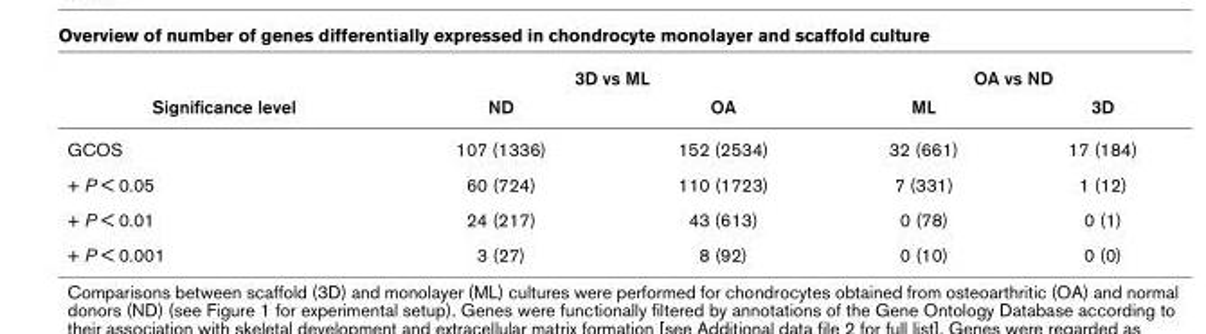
<table><thead><tr><td rowspan="2">Significance level</td><td colspan="2">3D vs ML</td><td colspan="2">OA vs ND</td></tr><tr><td>ND</td><td>OA</td><td>ML</td><td>3D</td></tr></thead><tbody><tr><td>GCOS</td><td>107 (1336)</td><td>152 (2534)</td><td>32 (661)</td><td>17 (184)</td></tr><tr><td>+ P &lt; 0.05</td><td>60 (724)</td><td>110 (1723)</td><td>7 (331)</td><td>1 (12)</td></tr><tr><td>+ P &lt; 0.01</td><td>24 (217)</td><td>43 (613)</td><td>0 (78)</td><td>0 (1)</td></tr><tr><td>+ P &lt; 0.001</td><td>3 (27)</td><td>8 (92)</td><td>0 (10)</td><td>0 (0)</td></tr></tbody></table>